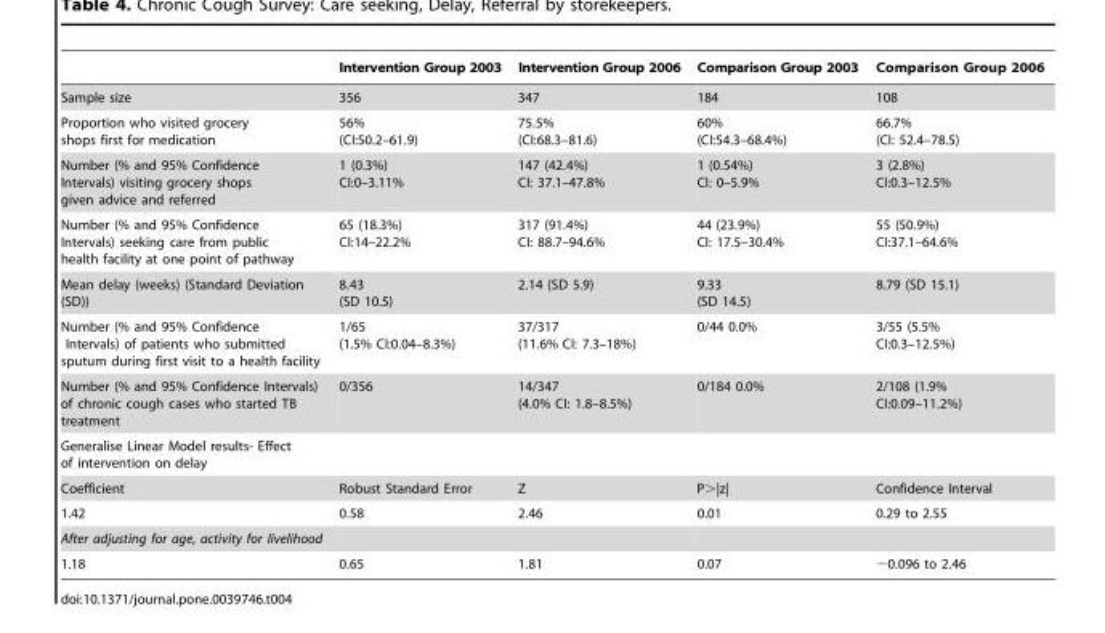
<table><thead><tr><td></td><td>Intervention Group 2003</td><td>Intervention Group 2006</td><td>Comparison Group 2003</td><td>Comparison Group 2006</td></tr></thead><tbody><tr><td>Sample size</td><td>356</td><td>347</td><td>184</td><td>108</td></tr><tr><td>Proportion who visited grocery shops first for medication</td><td>56% (CI:50.2–61.9)</td><td>75.5% (CI:68.3–81.6)</td><td>60% (CI:54.3–68.4%)</td><td>66.7% (CI: 52.4–78.5)</td></tr><tr><td>Number (% and 95% Confidence Intervals) visiting grocery shops given advice and referred</td><td>1 (0.3%) CI:0–3.11%</td><td>147 (42.4%) CI: 37.1–47.8%</td><td>1 (0.54%) CI: 0–5.9%</td><td>3 (2.8%) CI:0.3–12.5%</td></tr><tr><td>Number (% and 95% Confidence Intervals) seeking care from public health facility at one point of pathway</td><td>65 (18.3%) CI:14–22.2%</td><td>317 (91.4%) CI: 88.7–94.6%</td><td>44 (23.9%) CI: 17.5–30.4%</td><td>55 (50.9%) CI:37.1–64.6%</td></tr><tr><td>Mean delay (weeks) (Standard Deviation (SD))</td><td>8.43 (SD 10.5)</td><td>2.14 (SD 5.9)</td><td>9.33 (SD 14.5)</td><td>8.79 (SD 15.1)</td></tr><tr><td>Number (% and 95% Confidence Intervals) of patients who submitted sputum during first visit to a health facility</td><td>1/65 (1.5% CI:0.04–8.3%)</td><td>37/317 (11.6% CI: 7.3–18%)</td><td>0/44 0.0%</td><td>3/55 (5.5% CI:0.3–12.5%)</td></tr><tr><td>Number (% and 95% Confidence Intervals) of chronic cough cases who started TB treatment</td><td>0/356</td><td>14/347 (4.0% CI: 1.8–8.5%)</td><td>0/184 0.0%</td><td>2/108 (1.9% CI:0.09–11.2%)</td></tr><tr><td colspan="5">Generalise Linear Model results- Effect of intervention on delay</td></tr><tr><td>Coefficient</td><td>Robust Standard Error</td><td>Z</td><td>P&gt;|z|</td><td>Confidence Interval</td></tr><tr><td>1.42</td><td>0.58</td><td>2.46</td><td>0.01</td><td>0.29 to 2.55</td></tr><tr><td colspan="5">After adjusting for age, activity for livelihood</td></tr><tr><td>1.18</td><td>0.65</td><td>1.81</td><td>0.07</td><td>−0.096 to 2.46</td></tr></tbody></table>